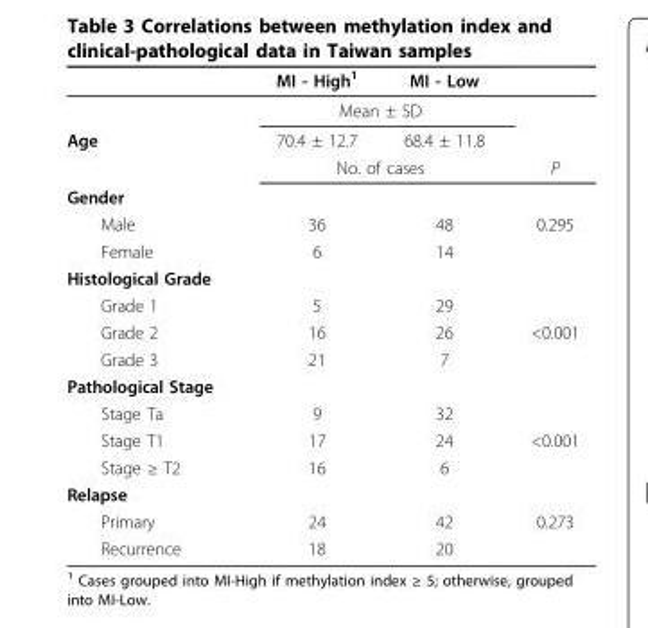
<table><thead><tr><td></td><td>MI - High<sup>1</sup></td><td>MI - Low</td><td></td></tr></thead><tbody><tr><td></td><td colspan="2">Mean ± SD</td><td></td></tr><tr><td rowspan="2">Age</td><td>70.4 ± 12.7</td><td>68.4 ± 11.8</td><td></td></tr><tr><td colspan="2">No. of cases</td><td>P</td></tr><tr><td colspan="4">Gender</td></tr><tr><td>Male</td><td>36</td><td>48</td><td>0.295</td></tr><tr><td>Female</td><td>6</td><td>14</td><td></td></tr><tr><td colspan="4">Histological Grade</td></tr><tr><td>Grade 1</td><td>5</td><td>29</td><td></td></tr><tr><td>Grade 2</td><td>16</td><td>26</td><td>&lt;0.001</td></tr><tr><td>Grade 3</td><td>21</td><td>7</td><td></td></tr><tr><td colspan="4">Pathological Stage</td></tr><tr><td>Stage Ta</td><td>9</td><td>32</td><td></td></tr><tr><td>Stage T1</td><td>17</td><td>24</td><td>&lt;0.001</td></tr><tr><td>Stage ≥ T2</td><td>16</td><td>6</td><td></td></tr><tr><td colspan="4">Relapse</td></tr><tr><td>Primary</td><td>24</td><td>42</td><td>0.273</td></tr><tr><td>Recurrence</td><td>18</td><td>20</td><td></td></tr></tbody></table>